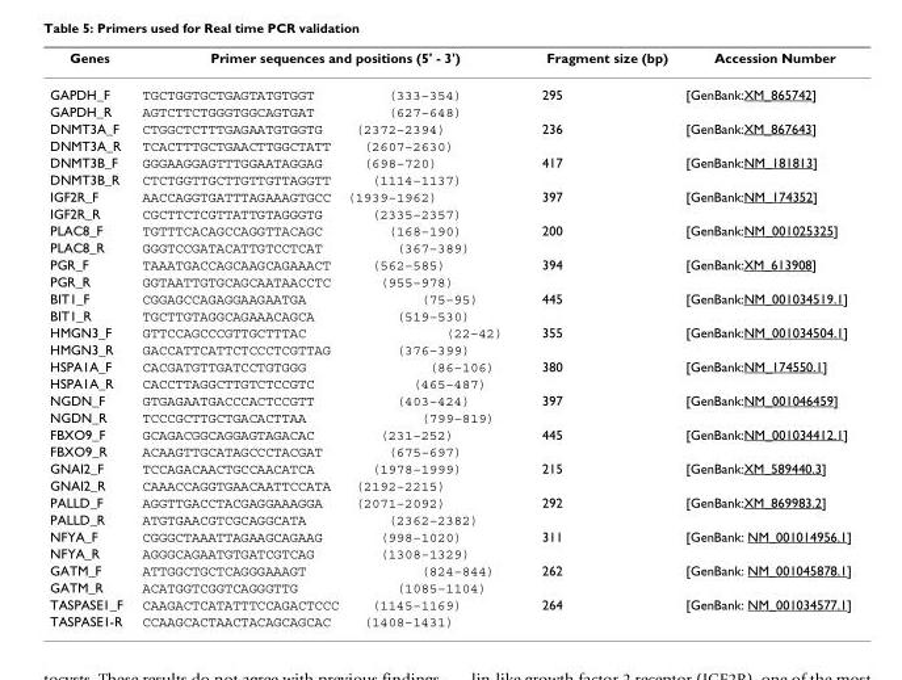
<table><thead><tr><td>Genes</td><td>Primer sequences and positions (5&#x27; - 3&#x27;)</td><td>Fragment size (bp)</td><td>Accession Number</td></tr></thead><tbody><tr><td>GAPDH_F</td><td>TGCTGGTGCTGAGTATGTGGT (333–354)</td><td>295</td><td>[GenBank:XM_865742]</td></tr><tr><td>GAPDH_R</td><td>AGTCTTCTGGGTGGCAGTGAT (627–648)</td><td></td><td></td></tr><tr><td>DNMT3A_F</td><td>CTGGCTCTTTGAGAATGTGGTG (2372–2394)</td><td>236</td><td>[GenBank:XM_867643]</td></tr><tr><td>DNMT3A_R</td><td>TCACTTTGCTGAACTTGGCTATT (2607–2630)</td><td></td><td></td></tr><tr><td>DNMT3B_F</td><td>GGGAAGGAGTTTGGAATAGGAG (698–720)</td><td>417</td><td>[GenBank:NM_181813]</td></tr><tr><td>DNMT3B_R</td><td>CTCTGGTTGCTTGTTGTTAGGTT (1114–1137)</td><td></td><td></td></tr><tr><td>IGF2R_F</td><td>AACCAGGTGATTTAGAAAGTGCC (1939–1962)</td><td>397</td><td>[GenBank:NM_174352]</td></tr><tr><td>IGF2R_R</td><td>CGCTTCTCGTTATTGTAGGGTG (2335–2357)</td><td></td><td></td></tr><tr><td>PLAC8_F</td><td>TGTTTCACAGCCAGGTTACAGC (168–190)</td><td>200</td><td>[GenBank:NM_001025325]</td></tr><tr><td>PLAC8_R</td><td>GGGTCCGATACATTGTCCTCAT (367–389)</td><td></td><td></td></tr><tr><td>PGR_F</td><td>TAAATGACCAGCAAGCAGAAACT (562–585)</td><td>394</td><td>[GenBank:XM_613908]</td></tr><tr><td>PGR_R</td><td>GGTAATTGTGCAGCAATAACCTC (955–978)</td><td></td><td></td></tr><tr><td>BIT1_F</td><td>CGGAGCCAGAGGAAGAATGA (75–95)</td><td>445</td><td>[GenBank:NM_001034519.1]</td></tr><tr><td>BIT1_R</td><td>TGCTTGTAGGCAGAAACAGCA (519–530)</td><td></td><td></td></tr><tr><td>HMGN3_F</td><td>GTTCCAGCCCGTTGCTTTAC (22–42)</td><td>355</td><td>[GenBank:NM_001034504.1]</td></tr><tr><td>HMGN3_R</td><td>GACCATTCATTCTCCCTCGTTAG (376–399)</td><td></td><td></td></tr><tr><td>HSPA1A_F</td><td>CACGATGTTGATCCTGTGGG (86–106)</td><td>380</td><td>[GenBank:NM_174550.1]</td></tr><tr><td>HSPA1A_R</td><td>CACCTTAGGCTTGTCTCCGTC (465–487)</td><td></td><td></td></tr><tr><td>NGDN_F</td><td>GTGAGAATGACCCACTCCGTT (403–424)</td><td>397</td><td>[GenBank:NM_001046459]</td></tr><tr><td>NGDN_R</td><td>TCCCGCTTGCTGACACTTAA (799–819)</td><td></td><td></td></tr><tr><td>FBXO9_F</td><td>GCAGACGGCAGGAGTAGACAC (231–252)</td><td>445</td><td>[GenBank:NM_001034412.1]</td></tr><tr><td>FBXO9_R</td><td>ACAAGTTGCATAGCCCTACGAT (675–697)</td><td></td><td></td></tr><tr><td>GNAI2_F</td><td>TCCAGACAACTGCCAACATCA (1978–1999)</td><td>215</td><td>[GenBank:XM_589440.3]</td></tr><tr><td>GNAI2_R</td><td>CAAACCAGGTGAACAATTCCATA (2192–2215)</td><td></td><td></td></tr><tr><td>PALLD_F</td><td>AGGTTGACCTACGAGGAAAGGA (2071–2092)</td><td>292</td><td>[GenBank:XM_869983.2]</td></tr><tr><td>PALLD_R</td><td>ATGTGAACGTCGCAGGCATA (2362–2382)</td><td></td><td></td></tr><tr><td>NFYA_F</td><td>CGGGCTAAATTAGAAGCAGAAG (998–1020)</td><td>311</td><td>[GenBank: NM_001014956.1]</td></tr><tr><td>NFYA_R</td><td>AGGGCAGAATGTGATCGTCAG (1308–1329)</td><td></td><td></td></tr><tr><td>GATM_F</td><td>ATTGGCTGCTCAGGGAAAGT (824–844)</td><td>262</td><td>[GenBank: NM_001045878.1]</td></tr><tr><td>GATM_R</td><td>ACATGGTCGGTCAGGGTTG (1085–1104)</td><td></td><td></td></tr><tr><td>TASPASE1_F</td><td>CAAGACTCATATTTCCAGACTCCC (1145–1169)</td><td>264</td><td>[GenBank: NM_001034577.1]</td></tr><tr><td>TASPASE1-R</td><td>CCAAGCACTAACTACAGCAGCAC (1408–1431)</td><td></td><td></td></tr></tbody></table>